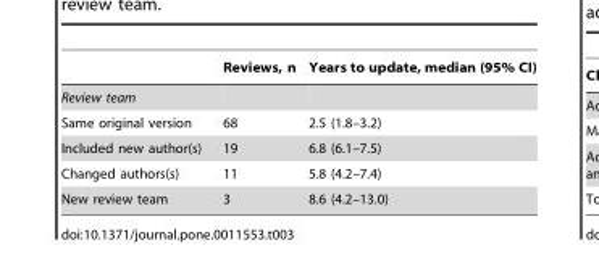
<table><thead><tr><td></td><td>Reviews, n</td><td>Years to update, median (95% CI)</td></tr></thead><tbody><tr><td colspan="3">Review team</td></tr><tr><td>Same original version</td><td>68</td><td>2.5 (1.8–3.2)</td></tr><tr><td>Included new author(s)</td><td>19</td><td>6.8 (6.1–7.5)</td></tr><tr><td>Changed authors(s)</td><td>11</td><td>5.8 (4.2–7.4)</td></tr><tr><td>New review team</td><td>3</td><td>8.6 (4.2–13.0)</td></tr></tbody></table>